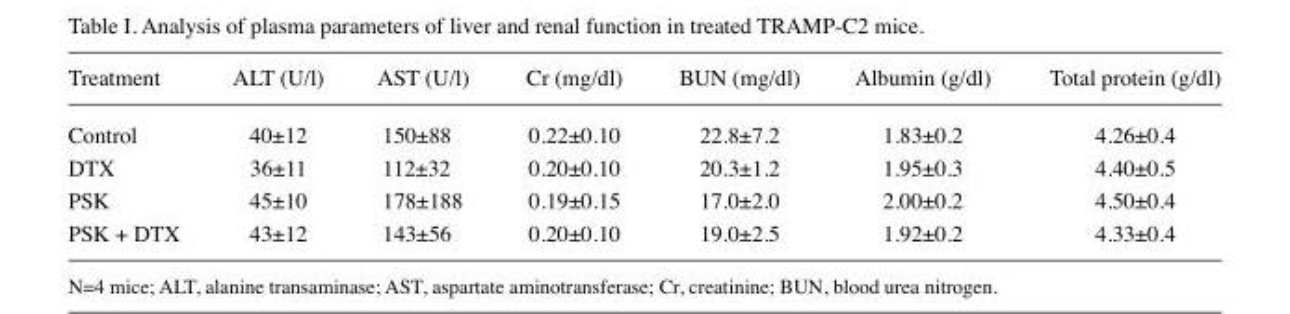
<table><thead><tr><td>Treatment</td><td>ALT (U/l)</td><td>AST (U/l)</td><td>Cr (mg/dl)</td><td>BUN (mg/dl)</td><td>Albumin (g/dl)</td><td>Total protein (g/dl)</td></tr></thead><tbody><tr><td>Control</td><td>40±12</td><td>150±88</td><td>0.22±0.10</td><td>22.8±7.2</td><td>1.83±0.2</td><td>4.26±0.4</td></tr><tr><td>DTX</td><td>36±11</td><td>112±32</td><td>0.20±0.10</td><td>20.3±1.2</td><td>1.95±0.3</td><td>4.40±0.5</td></tr><tr><td>PSK</td><td>45±10</td><td>178±188</td><td>0.19±0.15</td><td>17.0±2.0</td><td>2.00±0.2</td><td>4.50±0.4</td></tr><tr><td>PSK + DTX</td><td>43±12</td><td>143±56</td><td>0.20±0.10</td><td>19.0±2.5</td><td>1.92±0.2</td><td>4.33±0.4</td></tr></tbody></table>